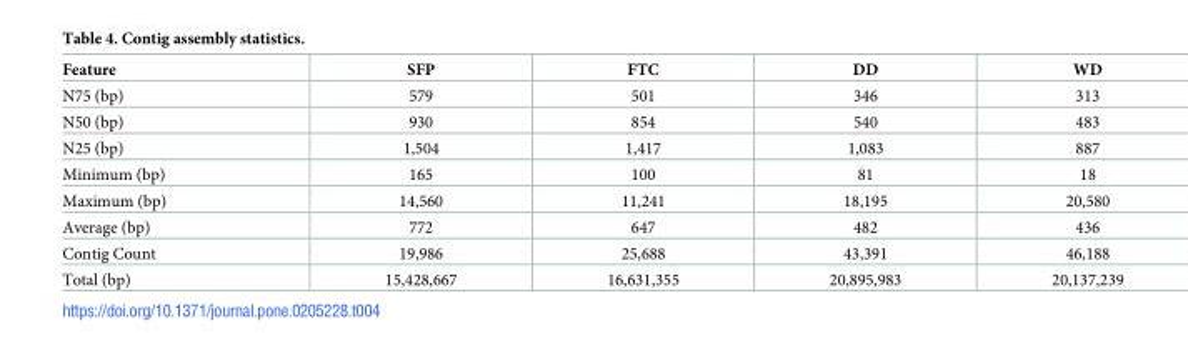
<table><thead><tr><td>Feature</td><td>SFP</td><td>FTC</td><td>DD</td><td>WD</td></tr></thead><tbody><tr><td>N75 (bp)</td><td>579</td><td>501</td><td>346</td><td>313</td></tr><tr><td>N50 (bp)</td><td>930</td><td>854</td><td>540</td><td>483</td></tr><tr><td>N25 (bp)</td><td>1,504</td><td>1,417</td><td>1,083</td><td>887</td></tr><tr><td>Minimum (bp)</td><td>165</td><td>100</td><td>81</td><td>18</td></tr><tr><td>Maximum (bp)</td><td>14,560</td><td>11,241</td><td>18,195</td><td>20,580</td></tr><tr><td>Average (bp)</td><td>772</td><td>647</td><td>482</td><td>436</td></tr><tr><td>Contig Count</td><td>19,986</td><td>25,688</td><td>43,391</td><td>46,188</td></tr><tr><td>Total (bp)</td><td>15,428,667</td><td>16,631,355</td><td>20,895,983</td><td>20,137,239</td></tr></tbody></table>